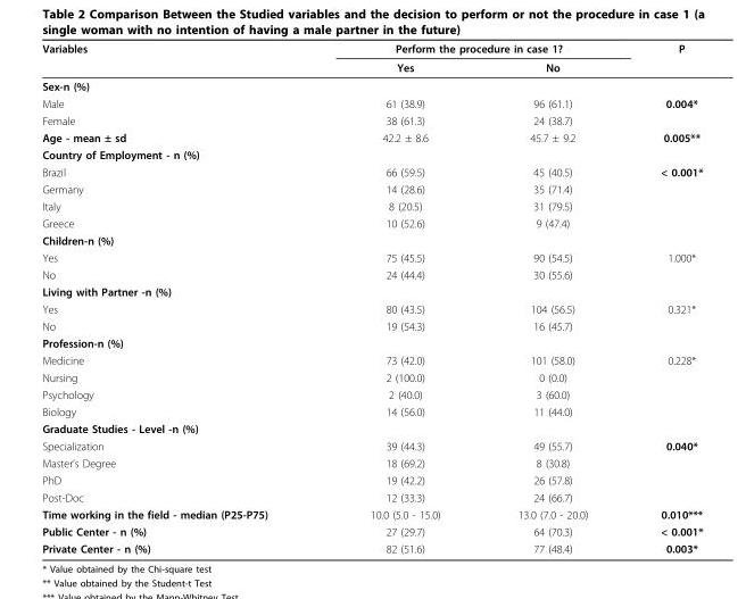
<table><thead><tr><td rowspan="2">Variables</td><td colspan="2">Perform the procedure in case 1?</td><td rowspan="2">P</td></tr><tr><td>Yes</td><td>No</td></tr></thead><tbody><tr><td colspan="4">Sex-n (%)</td></tr><tr><td>Male</td><td>61 (38.9)</td><td>96 (61.1)</td><td>0.004*</td></tr><tr><td>Female</td><td>38 (61.3)</td><td>24 (38.7)</td><td></td></tr><tr><td>Age - mean ± sd</td><td>42.2 ± 8.6</td><td>45.7 ± 9.2</td><td>0.005**</td></tr><tr><td colspan="4">Country of Employment - n (%)</td></tr><tr><td>Brazil</td><td>66 (59.5)</td><td>45 (40.5)</td><td>&lt; 0.001*</td></tr><tr><td>Germany</td><td>14 (28.6)</td><td>35 (71.4)</td><td></td></tr><tr><td>Italy</td><td>8 (20.5)</td><td>31 (79.5)</td><td></td></tr><tr><td>Greece</td><td>10 (52.6)</td><td>9 (47.4)</td><td></td></tr><tr><td colspan="4">Children-n (%)</td></tr><tr><td>Yes</td><td>75 (45.5)</td><td>90 (54.5)</td><td>1.000*</td></tr><tr><td>No</td><td>24 (44.4)</td><td>30 (55.6)</td><td></td></tr><tr><td colspan="4">Living with Partner -n (%)</td></tr><tr><td>Yes</td><td>80 (43.5)</td><td>104 (56.5)</td><td>0.321*</td></tr><tr><td>No</td><td>19 (54.3)</td><td>16 (45.7)</td><td></td></tr><tr><td colspan="4">Profession-n (%)</td></tr><tr><td>Medicine</td><td>73 (42.0)</td><td>101 (58.0)</td><td>0.228*</td></tr><tr><td>Nursing</td><td>2 (100.0)</td><td>0 (0.0)</td><td></td></tr><tr><td>Psychology</td><td>2 (40.0)</td><td>3 (60.0)</td><td></td></tr><tr><td>Biology</td><td>14 (56.0)</td><td>11 (44.0)</td><td></td></tr><tr><td colspan="4">Graduate Studies - Level -n (%)</td></tr><tr><td>Specialization</td><td>39 (44.3)</td><td>49 (55.7)</td><td>0.040*</td></tr><tr><td>Master’s Degree</td><td>18 (69.2)</td><td>8 (30.8)</td><td></td></tr><tr><td>PhD</td><td>19 (42.2)</td><td>26 (57.8)</td><td></td></tr><tr><td>Post-Doc</td><td>12 (33.3)</td><td>24 (66.7)</td><td></td></tr><tr><td>Time working in the field - median (P25-P75)</td><td>10.0 (5.0 - 15.0)</td><td>13.0 (7.0 - 20.0)</td><td>0.010***</td></tr><tr><td>Public Center - n (%)</td><td>27 (29.7)</td><td>64 (70.3)</td><td>&lt; 0.001*</td></tr><tr><td>Private Center - n (%)</td><td>82 (51.6)</td><td>77 (48.4)</td><td>0.003*</td></tr></tbody></table>